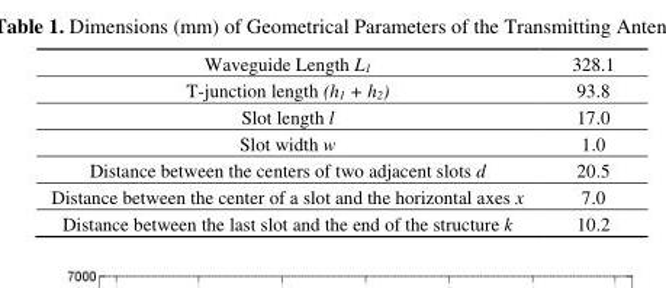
<table><tbody><tr><td>Waveguide Length L<sub>1</sub></td><td>328.1</td></tr><tr><td>T-junction length (h<sub>1</sub> + h<sub>2</sub>)</td><td>93.8</td></tr><tr><td>Slot length l</td><td>17.0</td></tr><tr><td>Slot width w</td><td>1.0</td></tr><tr><td>Distance between the centers of two adjacent slots d</td><td>20.5</td></tr><tr><td>Distance between the center of a slot and the horizontal axes x</td><td>7.0</td></tr><tr><td>Distance between the last slot and the end of the structure k</td><td>10.2</td></tr></tbody></table>